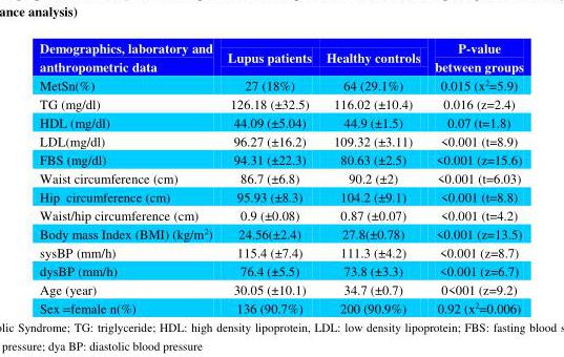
<table><thead><tr><td>Demographics, laboratory and anthropometric data</td><td>Lupus patients</td><td>Healthy controls</td><td>P-value between groups</td></tr></thead><tbody><tr><td>MetSn(%)</td><td>27 (18%)</td><td>64 (29.1%)</td><td>0.015 (x<sup>2</sup>=5.9)</td></tr><tr><td>TG (mg/dl)</td><td>126.18 (±32.5)</td><td>116.02 (±10.4)</td><td>0.016 (z=2.4)</td></tr><tr><td>HDL (mg/dl)</td><td>44.09 (±5.04)</td><td>44.9 (±1.5)</td><td>0.07 (t=1.8)</td></tr><tr><td>LDL(mg/dl)</td><td>96.27 (±16.2)</td><td>109.32 (±3.11)</td><td>&lt;0.001 (t=8.9)</td></tr><tr><td>FBS (mg/dl)</td><td>94.31 (±22.3)</td><td>80.63 (±2.5)</td><td>&lt;0.001 (z=15.6)</td></tr><tr><td>Waist circumference (cm)</td><td>86.7 (±6.8)</td><td>90.2 (±2)</td><td>&lt;0.001 (t=6.03)</td></tr><tr><td>Hip circumference (cm)</td><td>95.93 (±8.3)</td><td>104.2 (±9.1)</td><td>&lt;0.001 (t=8.8)</td></tr><tr><td>Waist/hip circumference (cm)</td><td>0.9 (±0.08)</td><td>0.87 (±0.07)</td><td>&lt;0.001 (t=4.2)</td></tr><tr><td>Body mass Index (BMI) (kg/m<sup>2</sup>)</td><td>24.56(±2.4)</td><td>27.8(±0.78)</td><td>&lt;0.001 (z=13.5)</td></tr><tr><td>sysBP (mm/h)</td><td>115.4 (±7.4)</td><td>111.3 (±4.2)</td><td>&lt;0.001 (z=8.7)</td></tr><tr><td>dysBP (mm/h)</td><td>76.4 (±5.5)</td><td>73.8 (±3.3)</td><td>&lt;0.001 (z=6.7)</td></tr><tr><td>Age (year)</td><td>30.05 (±10.1)</td><td>34.7 (±0.7)</td><td>0&lt;001 (z=9.2)</td></tr><tr><td>Sex =female n(%)</td><td>136 (90.7%)</td><td>200 (90.9%)</td><td>0.92 (x<sup>2</sup>=0.006)</td></tr></tbody></table>